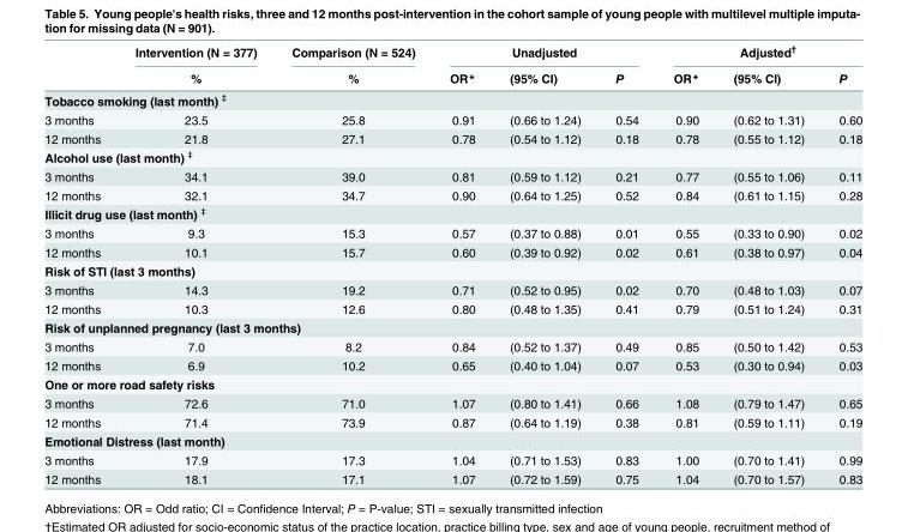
<table><thead><tr><td rowspan="2"></td><td rowspan="2">Intervention (N = 377) %</td><td rowspan="2">Comparison (N = 524) %</td><td colspan="3">Unadjusted</td><td colspan="3">Adjusted<sup>†</sup></td></tr><tr><td>OR*</td><td>(95% CI)</td><td>P</td><td>OR*</td><td>(95% CI)</td><td>P</td></tr></thead><tbody><tr><td colspan="9">Tobacco smoking (last month) <sup>‡</sup></td></tr><tr><td>3 months</td><td>23.5</td><td>25.8</td><td>0.91</td><td>(0.66 to 1.24)</td><td>0.54</td><td>0.90</td><td>(0.62 to 1.31)</td><td>0.60</td></tr><tr><td>12 months</td><td>21.8</td><td>27.1</td><td>0.78</td><td>(0.54 to 1.12)</td><td>0.18</td><td>0.78</td><td>(0.55 to 1.12)</td><td>0.18</td></tr><tr><td colspan="9">Alcohol use (last month) <sup>‡</sup></td></tr><tr><td>3 months</td><td>34.1</td><td>39.0</td><td>0.81</td><td>(0.59 to 1.12)</td><td>0.21</td><td>0.77</td><td>(0.55 to 1.06)</td><td>0.11</td></tr><tr><td>12 months</td><td>32.1</td><td>34.7</td><td>0.90</td><td>(0.64 to 1.25)</td><td>0.52</td><td>0.84</td><td>(0.61 to 1.15)</td><td>0.28</td></tr><tr><td colspan="9">Illicit drug use (last month) <sup>‡</sup></td></tr><tr><td>3 months</td><td>9.3</td><td>15.3</td><td>0.57</td><td>(0.37 to 0.88)</td><td>0.01</td><td>0.55</td><td>(0.33 to 0.90)</td><td>0.02</td></tr><tr><td>12 months</td><td>10.1</td><td>15.7</td><td>0.60</td><td>(0.39 to 0.92)</td><td>0.02</td><td>0.61</td><td>(0.38 to 0.97)</td><td>0.04</td></tr><tr><td colspan="9">Risk of STI (last 3 months)</td></tr><tr><td>3 months</td><td>14.3</td><td>19.2</td><td>0.71</td><td>(0.52 to 0.95)</td><td>0.02</td><td>0.70</td><td>(0.48 to 1.03)</td><td>0.07</td></tr><tr><td>12 months</td><td>10.3</td><td>12.6</td><td>0.80</td><td>(0.48 to 1.35)</td><td>0.41</td><td>0.79</td><td>(0.51 to 1.24)</td><td>0.31</td></tr><tr><td colspan="9">Risk of unplanned pregnancy (last 3 months)</td></tr><tr><td>3 months</td><td>7.0</td><td>8.2</td><td>0.84</td><td>(0.52 to 1.37)</td><td>0.49</td><td>0.85</td><td>(0.50 to 1.42)</td><td>0.53</td></tr><tr><td>12 months</td><td>6.9</td><td>10.2</td><td>0.65</td><td>(0.40 to 1.04)</td><td>0.07</td><td>0.53</td><td>(0.30 to 0.94)</td><td>0.03</td></tr><tr><td colspan="9">One or more road safety risks</td></tr><tr><td>3 months</td><td>72.6</td><td>71.0</td><td>1.07</td><td>(0.80 to 1.41)</td><td>0.66</td><td>1.08</td><td>(0.79 to 1.47)</td><td>0.65</td></tr><tr><td>12 months</td><td>71.4</td><td>73.9</td><td>0.87</td><td>(0.64 to 1.19)</td><td>0.38</td><td>0.81</td><td>(0.59 to 1.11)</td><td>0.19</td></tr><tr><td colspan="9">Emotional Distress (last month)</td></tr><tr><td>3 months</td><td>17.9</td><td>17.3</td><td>1.04</td><td>(0.71 to 1.53)</td><td>0.83</td><td>1.00</td><td>(0.70 to 1.41)</td><td>0.99</td></tr><tr><td>12 months</td><td>18.1</td><td>17.1</td><td>1.07</td><td>(0.72 to 1.59)</td><td>0.75</td><td>1.04</td><td>(0.70 to 1.57)</td><td>0.83</td></tr></tbody></table>